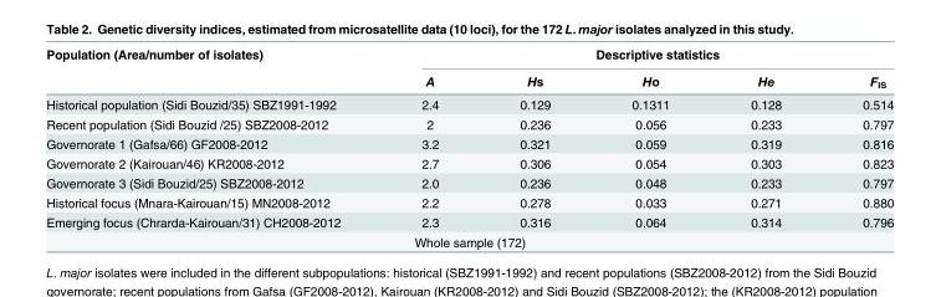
<table><thead><tr><td rowspan="2">Population (Area/number of isolates)</td><td colspan="5">Descriptive statistics</td></tr><tr><td>A</td><td>Hs</td><td>Ho</td><td>He</td><td>F<sub>IS</sub></td></tr></thead><tbody><tr><td>Historical population (Sidi Bouzid/35) SBZ1991-1992</td><td>2.4</td><td>0.129</td><td>0.1311</td><td>0.128</td><td>0.514</td></tr><tr><td>Recent population (Sidi Bouzid /25) SBZ2008-2012</td><td>2</td><td>0.236</td><td>0.056</td><td>0.233</td><td>0.797</td></tr><tr><td>Governorate 1 (Gafsa/66) GF2008-2012</td><td>3.2</td><td>0.321</td><td>0.059</td><td>0.319</td><td>0.816</td></tr><tr><td>Governorate 2 (Kairouan/46) KR2008-2012</td><td>2.7</td><td>0.306</td><td>0.054</td><td>0.303</td><td>0.823</td></tr><tr><td>Governorate 3 (Sidi Bouzid/25) SBZ2008-2012</td><td>2.0</td><td>0.236</td><td>0.048</td><td>0.233</td><td>0.797</td></tr><tr><td>Historical focus (Mnara-Kairouan/15) MN2008-2012</td><td>2.2</td><td>0.278</td><td>0.033</td><td>0.271</td><td>0.880</td></tr><tr><td>Emerging focus (Chrarda-Kairouan/31) CH2008-2012</td><td>2.3</td><td>0.316</td><td>0.064</td><td>0.314</td><td>0.796</td></tr><tr><td colspan="6">Whole sample (172)</td></tr></tbody></table>